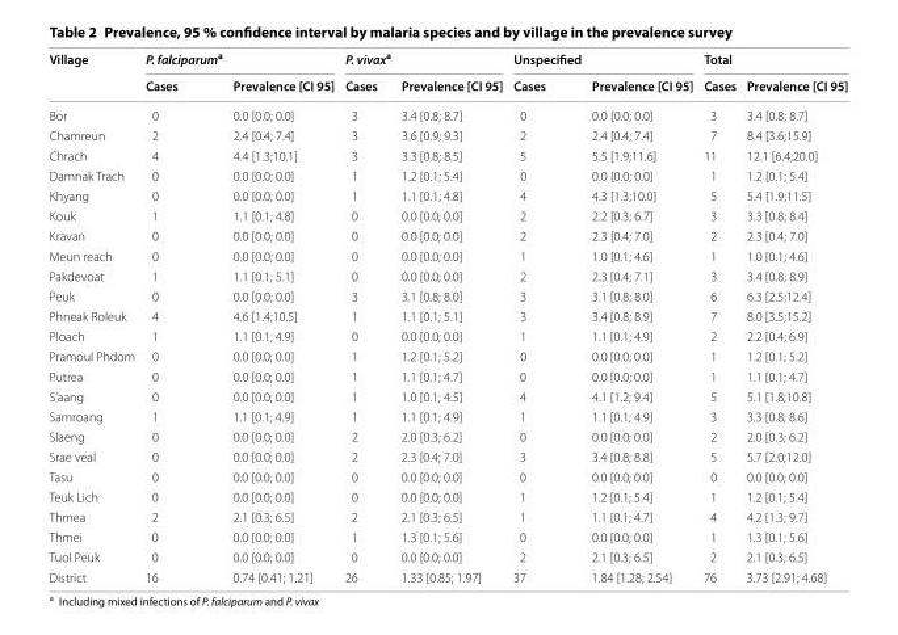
<table><thead><tr><td rowspan="2">Village</td><td colspan="2">P. falciparum<sup>a</sup></td><td colspan="2">P. vivax<sup>a</sup></td><td colspan="2">Unspecified</td><td colspan="2">Total</td></tr><tr><td>Cases</td><td>Prevalence [CI 95]</td><td>Cases</td><td>Prevalence [CI 95]</td><td>Cases</td><td>Prevalence [CI 95]</td><td>Cases</td><td>Prevalence [CI 95]</td></tr></thead><tbody><tr><td>Bor</td><td>0</td><td>0.0 [0.0; 0.0]</td><td>3</td><td>3.4 [0.8; 8.7]</td><td>0</td><td>0.0 [0.0; 0.0]</td><td>3</td><td>3.4 [0.8; 8.7]</td></tr><tr><td>Chamreun</td><td>2</td><td>2.4 [0.4; 7.4]</td><td>3</td><td>3.6 [0.9; 9.3]</td><td>2</td><td>2.4 [0.4; 7.4]</td><td>7</td><td>8.4 [3.6;15.9]</td></tr><tr><td>Chrach</td><td>4</td><td>4.4 [1.3;10.1]</td><td>3</td><td>3.3 [0.8; 8.5]</td><td>5</td><td>5.5 [1.9;11.6]</td><td>11</td><td>12.1 [6.4;20.0]</td></tr><tr><td>Damnak Trach</td><td>0</td><td>0.0 [0.0; 0.0]</td><td>1</td><td>1.2 [0.1; 5.4]</td><td>0</td><td>0.0 [0.0; 0.0]</td><td>1</td><td>1.2 [0.1; 5.4]</td></tr><tr><td>Khyang</td><td>0</td><td>0.0 [0.0; 0.0]</td><td>1</td><td>1.1 [0.1; 4.8]</td><td>4</td><td>4.3 [1.3;10.0]</td><td>5</td><td>5.4 [1.9;11.5]</td></tr><tr><td>Kouk</td><td>1</td><td>1.1 [0.1; 4.8]</td><td>0</td><td>0.0 [0.0; 0.0]</td><td>2</td><td>2.2 [0.3; 6.7]</td><td>3</td><td>3.3 [0.8; 8.4]</td></tr><tr><td>Kravan</td><td>0</td><td>0.0 [0.0; 0.0]</td><td>0</td><td>0.0 [0.0; 0.0]</td><td>2</td><td>2.3 [0.4; 7.0]</td><td>2</td><td>2.3 [0.4; 7.0]</td></tr><tr><td>Meun reach</td><td>0</td><td>0.0 [0.0; 0.0]</td><td>0</td><td>0.0 [0.0; 0.0]</td><td>1</td><td>1.0 [0.1; 4.6]</td><td>1</td><td>1.0 [0.1; 4.6]</td></tr><tr><td>Pakdevoat</td><td>1</td><td>1.1 [0.1; 5.1]</td><td>0</td><td>0.0 [0.0; 0.0]</td><td>2</td><td>2.3 [0.4; 7.1]</td><td>3</td><td>3.4 [0.8; 8.9]</td></tr><tr><td>Peuk</td><td>0</td><td>0.0 [0.0; 0.0]</td><td>3</td><td>3.1 [0.8; 8.0]</td><td>3</td><td>3.1 [0.8; 8.0]</td><td>6</td><td>6.3 [2.5;12.4]</td></tr><tr><td>Phneak Roleuk</td><td>4</td><td>4.6 [1.4;10.5]</td><td>1</td><td>1.1 [0.1; 5.1]</td><td>3</td><td>3.4 [0.8; 8.9]</td><td>7</td><td>8.0 [3.5;15.2]</td></tr><tr><td>Ploach</td><td>1</td><td>1.1 [0.1; 4.9]</td><td>0</td><td>0.0 [0.0; 0.0]</td><td>1</td><td>1.1 [0.1; 4.9]</td><td>2</td><td>2.2 [0.4; 6.9]</td></tr><tr><td>Pramoul Phdom</td><td>0</td><td>0.0 [0.0; 0.0]</td><td>1</td><td>1.2 [0.1; 5.2]</td><td>0</td><td>0.0 [0.0; 0.0]</td><td>1</td><td>1.2 [0.1; 5.2]</td></tr><tr><td>Putrea</td><td>0</td><td>0.0 [0.0; 0.0]</td><td>1</td><td>1.1 [0.1; 4.7]</td><td>0</td><td>0.0 [0.0; 0.0]</td><td>1</td><td>1.1 [0.1; 4.7]</td></tr><tr><td>S’aang</td><td>0</td><td>0.0 [0.0; 0.0]</td><td>1</td><td>1.0 [0.1; 4.5]</td><td>4</td><td>4.1 [1.2; 9.4]</td><td>5</td><td>5.1 [1.8;10.8]</td></tr><tr><td>Samroang</td><td>1</td><td>1.1 [0.1; 4.9]</td><td>1</td><td>1.1 [0.1; 4.9]</td><td>1</td><td>1.1 [0.1; 4.9]</td><td>3</td><td>3.3 [0.8; 8.6]</td></tr><tr><td>Slaeng</td><td>0</td><td>0.0 [0.0; 0.0]</td><td>2</td><td>2.0 [0.3; 6.2]</td><td>0</td><td>0.0 [0.0; 0.0]</td><td>2</td><td>2.0 [0.3; 6.2]</td></tr><tr><td>Srae veal</td><td>0</td><td>0.0 [0.0; 0.0]</td><td>2</td><td>2.3 [0.4; 7.0]</td><td>3</td><td>3.4 [0.8; 8.8]</td><td>5</td><td>5.7 [2.0;12.0]</td></tr><tr><td>Tasu</td><td>0</td><td>0.0 [0.0; 0.0]</td><td>0</td><td>0.0 [0.0; 0.0]</td><td>0</td><td>0.0 [0.0; 0.0]</td><td>0</td><td>0.0 [0.0; 0.0]</td></tr><tr><td>Teuk Lich</td><td>0</td><td>0.0 [0.0; 0.0]</td><td>0</td><td>0.0 [0.0; 0.0]</td><td>1</td><td>1.2 [0.1; 5.4]</td><td>1</td><td>1.2 [0.1; 5.4]</td></tr><tr><td>Thmea</td><td>2</td><td>2.1 [0.3; 6.5]</td><td>2</td><td>2.1 [0.3; 6.5]</td><td>1</td><td>1.1 [0.1; 4.7]</td><td>4</td><td>4.2 [1.3; 9.7]</td></tr><tr><td>Thmei</td><td>0</td><td>0.0 [0.0; 0.0]</td><td>1</td><td>1.3 [0.1; 5.6]</td><td>0</td><td>0.0 [0.0; 0.0]</td><td>1</td><td>1.3 [0.1; 5.6]</td></tr><tr><td>Tuol Peuk</td><td>0</td><td>0.0 [0.0; 0.0]</td><td>0</td><td>0.0 [0.0; 0.0]</td><td>2</td><td>2.1 [0.3; 6.5]</td><td>2</td><td>2.1 [0.3; 6.5]</td></tr><tr><td>District</td><td>16</td><td>0.74 [0.41; 1.21]</td><td>26</td><td>1.33 [0.85; 1.97]</td><td>37</td><td>1.84 [1.28; 2.54]</td><td>76</td><td>3.73 [2.91; 4.68]</td></tr></tbody></table>